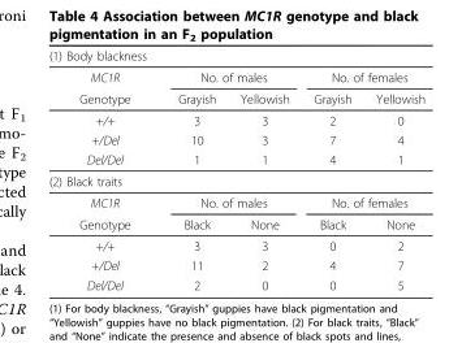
<table><thead><tr><td>(1) Body blackness</td><td></td><td></td><td></td><td></td></tr></thead><tbody><tr><td>MC1R</td><td colspan="2">No. of males</td><td colspan="2">No. of females</td></tr><tr><td>Genotype</td><td>Grayish</td><td>Yellowish</td><td>Grayish</td><td>Yellowish</td></tr><tr><td>+/+</td><td>3</td><td>3</td><td>2</td><td>0</td></tr><tr><td>+/Del</td><td>10</td><td>3</td><td>7</td><td>4</td></tr><tr><td>Del/Del</td><td>1</td><td>1</td><td>4</td><td>1</td></tr><tr><td colspan="5">(2) Black traits</td></tr><tr><td>MC1R</td><td colspan="2">No. of males</td><td colspan="2">No. of females</td></tr><tr><td>Genotype</td><td>Black</td><td>None</td><td>Black</td><td>None</td></tr><tr><td>+/+</td><td>3</td><td>3</td><td>0</td><td>2</td></tr><tr><td>+/Del</td><td>11</td><td>2</td><td>4</td><td>7</td></tr><tr><td>Del/Del</td><td>2</td><td>0</td><td>0</td><td>5</td></tr></tbody></table>